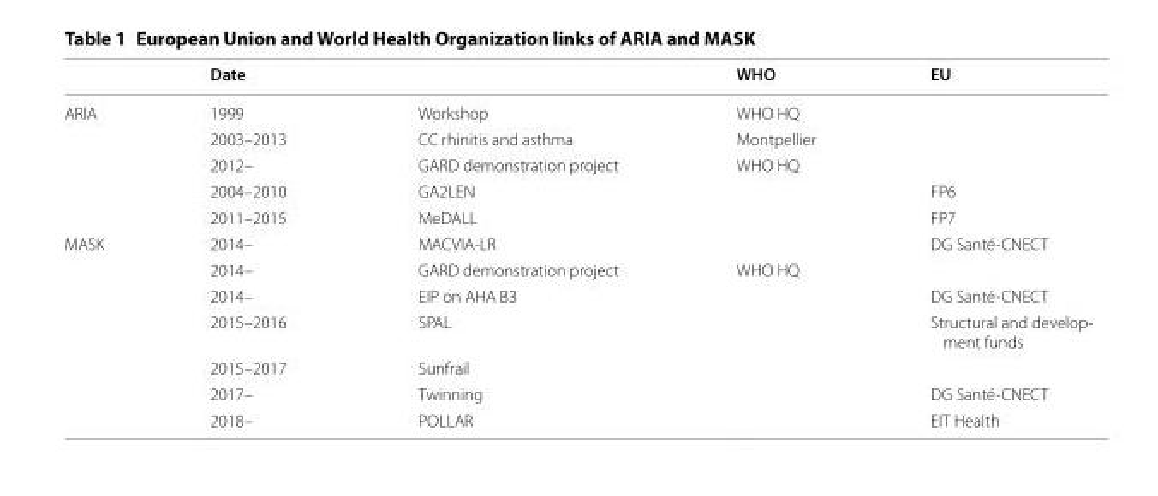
<table><thead><tr><td></td><td>Date</td><td></td><td>WHO</td><td>EU</td></tr></thead><tbody><tr><td rowspan="5">ARIA</td><td>1999</td><td>Workshop</td><td>WHO HQ</td><td></td></tr><tr><td>2003–2013</td><td>CC rhinitis and asthma</td><td>Montpellier</td><td></td></tr><tr><td>2012–</td><td>GARD demonstration project</td><td>WHO HQ</td><td></td></tr><tr><td>2004–2010</td><td>GA2LEN</td><td></td><td>FP6</td></tr><tr><td>2011–2015</td><td>MeDALL</td><td></td><td>FP7</td></tr><tr><td rowspan="7">MASK</td><td>2014–</td><td>MACVIA‑LR</td><td></td><td>DG Santé‑CNECT</td></tr><tr><td>2014–</td><td>GARD demonstration project</td><td>WHO HQ</td><td></td></tr><tr><td>2014–</td><td>EIP on AHA B3</td><td></td><td>DG Santé‑CNECT</td></tr><tr><td>2015–2016</td><td>SPAL</td><td></td><td>Structural and develop‑ ment funds</td></tr><tr><td>2015–2017</td><td>Sunfrail</td><td></td><td></td></tr><tr><td>2017–</td><td>Twinning</td><td></td><td>DG Santé‑CNECT</td></tr><tr><td>2018–</td><td>POLLAR</td><td></td><td>EIT Health</td></tr></tbody></table>